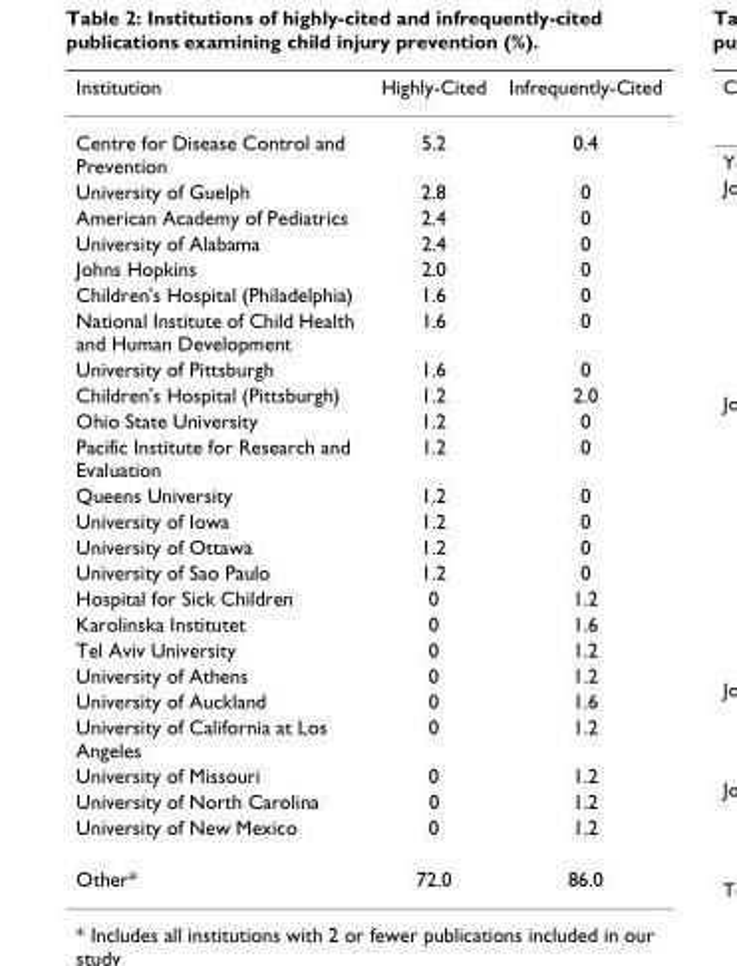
<table><thead><tr><td>Institution</td><td>Highly-Cited</td><td>Infrequently-Cited</td></tr></thead><tbody><tr><td>Centre for Disease Control and Prevention</td><td>5.2</td><td>0.4</td></tr><tr><td>University of Guelph</td><td>2.8</td><td>0</td></tr><tr><td>American Academy of Pediatrics</td><td>2.4</td><td>0</td></tr><tr><td>University of Alabama</td><td>2.4</td><td>0</td></tr><tr><td>Johns Hopkins</td><td>2.0</td><td>0</td></tr><tr><td>Children&#x27;s Hospital (Philadelphia)</td><td>1.6</td><td>0</td></tr><tr><td>National Institute of Child Health and Human Development</td><td>1.6</td><td>0</td></tr><tr><td>University of Pittsburgh</td><td>1.6</td><td>0</td></tr><tr><td>Children&#x27;s Hospital (Pittsburgh)</td><td>1.2</td><td>2.0</td></tr><tr><td>Ohio State University</td><td>1.2</td><td>0</td></tr><tr><td>Pacific Institute for Research and Evaluation</td><td>1.2</td><td>0</td></tr><tr><td>Queens University</td><td>1.2</td><td>0</td></tr><tr><td>University of Iowa</td><td>1.2</td><td>0</td></tr><tr><td>University of Ottawa</td><td>1.2</td><td>0</td></tr><tr><td>University of Sao Paulo</td><td>1.2</td><td>0</td></tr><tr><td>Hospital for Sick Children</td><td>0</td><td>1.2</td></tr><tr><td>Karolinska Institutet</td><td>0</td><td>1.6</td></tr><tr><td>Tel Aviv University</td><td>0</td><td>1.2</td></tr><tr><td>University of Athens</td><td>0</td><td>1.2</td></tr><tr><td>University of Auckland</td><td>0</td><td>1.6</td></tr><tr><td>University of California at Los Angeles</td><td>0</td><td>1.2</td></tr><tr><td>University of Missouri</td><td>0</td><td>1.2</td></tr><tr><td>University of North Carolina</td><td>0</td><td>1.2</td></tr><tr><td>University of New Mexico</td><td>0</td><td>1.2</td></tr><tr><td>Other*</td><td>72.0</td><td>86.0</td></tr></tbody></table>